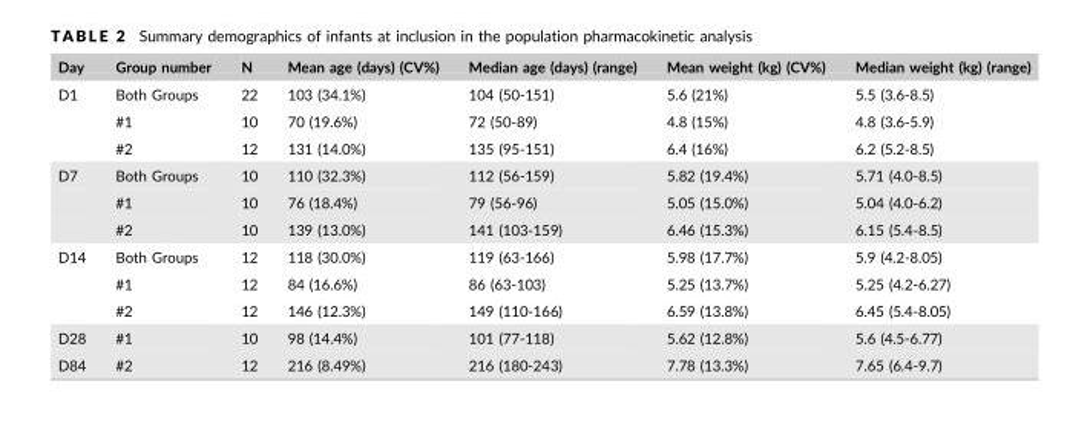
<table><thead><tr><td>Day</td><td>Group number</td><td>N</td><td>Mean age (days) (CV%)</td><td>Median age (days) (range)</td><td>Mean weight (kg) (CV%)</td><td>Median weight (kg) (range)</td></tr></thead><tbody><tr><td rowspan="3">D1</td><td>Both Groups</td><td>22</td><td>103 (34.1%)</td><td>104 (50-151)</td><td>5.6 (21%)</td><td>5.5 (3.6-8.5)</td></tr><tr><td>#1</td><td>10</td><td>70 (19.6%)</td><td>72 (50-89)</td><td>4.8 (15%)</td><td>4.8 (3.6-5.9)</td></tr><tr><td>#2</td><td>12</td><td>131 (14.0%)</td><td>135 (95-151)</td><td>6.4 (16%)</td><td>6.2 (5.2-8.5)</td></tr><tr><td rowspan="3">D7</td><td>Both Groups</td><td>10</td><td>110 (32.3%)</td><td>112 (56-159)</td><td>5.82 (19.4%)</td><td>5.71 (4.0-8.5)</td></tr><tr><td>#1</td><td>10</td><td>76 (18.4%)</td><td>79 (56-96)</td><td>5.05 (15.0%)</td><td>5.04 (4.0-6.2)</td></tr><tr><td>#2</td><td>10</td><td>139 (13.0%)</td><td>141 (103-159)</td><td>6.46 (15.3%)</td><td>6.15 (5.4-8.5)</td></tr><tr><td rowspan="3">D14</td><td>Both Groups</td><td>12</td><td>118 (30.0%)</td><td>119 (63-166)</td><td>5.98 (17.7%)</td><td>5.9 (4.2-8.05)</td></tr><tr><td>#1</td><td>12</td><td>84 (16.6%)</td><td>86 (63-103)</td><td>5.25 (13.7%)</td><td>5.25 (4.2-6.27)</td></tr><tr><td>#2</td><td>12</td><td>146 (12.3%)</td><td>149 (110-166)</td><td>6.59 (13.8%)</td><td>6.45 (5.4-8.05)</td></tr><tr><td>D28</td><td>#1</td><td>10</td><td>98 (14.4%)</td><td>101 (77-118)</td><td>5.62 (12.8%)</td><td>5.6 (4.5-6.77)</td></tr><tr><td>D84</td><td>#2</td><td>12</td><td>216 (8.49%)</td><td>216 (180-243)</td><td>7.78 (13.3%)</td><td>7.65 (6.4-9.7)</td></tr></tbody></table>